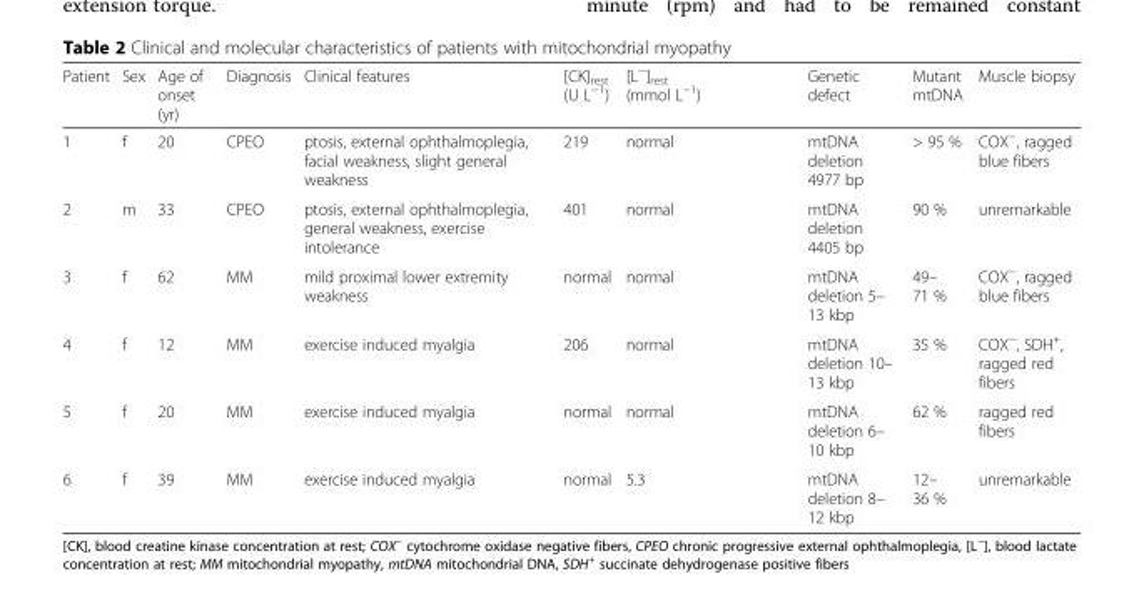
<table><thead><tr><td>Patient</td><td>Sex</td><td>Age of onset (yr)</td><td>Diagnosis</td><td>Clinical features</td><td>[CK]<sub>rest</sub> (U L<sup>−1</sup>)</td><td>[L<sup>−</sup>]<sub>rest</sub> (mmol L<sup>−1</sup>)</td><td>Genetic defect</td><td>Mutant mtDNA</td><td>Muscle biopsy</td></tr></thead><tbody><tr><td>1</td><td>f</td><td>20</td><td>CPEO</td><td>ptosis, external ophthalmoplegia, facial weakness, slight general weakness</td><td>219</td><td>normal</td><td>mtDNA deletion 4977 bp</td><td>&gt; 95 %</td><td>COX<sup>−</sup>, ragged blue fibers</td></tr><tr><td>2</td><td>m</td><td>33</td><td>CPEO</td><td>ptosis, external ophthalmoplegia, general weakness, exercise intolerance</td><td>401</td><td>normal</td><td>mtDNA deletion 4405 bp</td><td>90 %</td><td>unremarkable</td></tr><tr><td>3</td><td>f</td><td>62</td><td>MM</td><td>mild proximal lower extremity weakness</td><td>normal</td><td>normal</td><td>mtDNA deletion 5– 13 kbp</td><td>49– 71 %</td><td>COX<sup>−</sup>, ragged blue fibers</td></tr><tr><td>4</td><td>f</td><td>12</td><td>MM</td><td>exercise induced myalgia</td><td>206</td><td>normal</td><td>mtDNA deletion 10– 13 kbp</td><td>35 %</td><td>COX<sup>−</sup>, SDH<sup>+</sup>, ragged red fibers</td></tr><tr><td>5</td><td>f</td><td>20</td><td>MM</td><td>exercise induced myalgia</td><td>normal</td><td>normal</td><td>mtDNA deletion 6– 10 kbp</td><td>62 %</td><td>ragged red fibers</td></tr><tr><td>6</td><td>f</td><td>39</td><td>MM</td><td>exercise induced myalgia</td><td>normal</td><td>5.3</td><td>mtDNA deletion 8– 12 kbp</td><td>12– 36 %</td><td>unremarkable</td></tr></tbody></table>